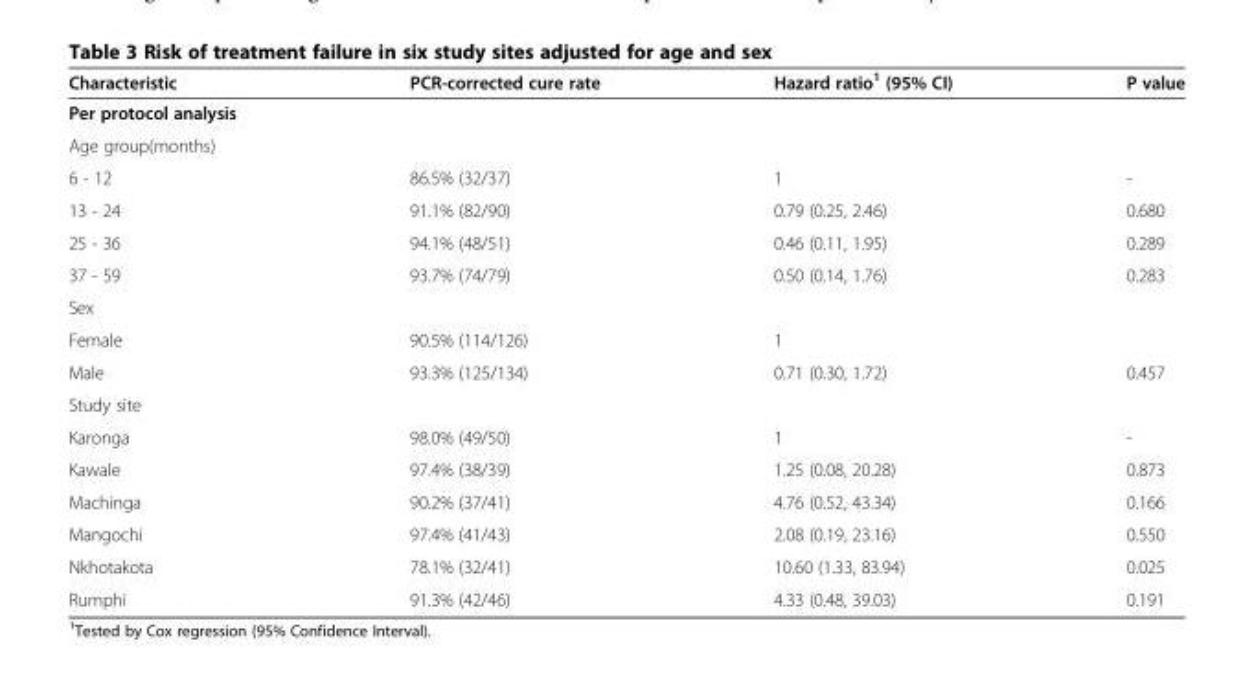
<table><thead><tr><td>Characteristic</td><td>PCR-corrected cure rate</td><td>Hazard ratio<sup>1</sup> (95% CI)</td><td>P value</td></tr></thead><tbody><tr><td colspan="4">Per protocol analysis</td></tr><tr><td colspan="4">Age group(months)</td></tr><tr><td>6 - 12</td><td>86.5% (32/37)</td><td>1</td><td>-</td></tr><tr><td>13 - 24</td><td>91.1% (82/90)</td><td>0.79 (0.25, 2.46)</td><td>0.680</td></tr><tr><td>25 - 36</td><td>94.1% (48/51)</td><td>0.46 (0.11, 1.95)</td><td>0.289</td></tr><tr><td>37 - 59</td><td>93.7% (74/79)</td><td>0.50 (0.14, 1.76)</td><td>0.283</td></tr><tr><td colspan="4">Sex</td></tr><tr><td>Female</td><td>90.5% (114/126)</td><td>1</td><td></td></tr><tr><td>Male</td><td>93.3% (125/134)</td><td>0.71 (0.30, 1.72)</td><td>0.457</td></tr><tr><td colspan="4">Study site</td></tr><tr><td>Karonga</td><td>98.0% (49/50)</td><td>1</td><td>-</td></tr><tr><td>Kawale</td><td>97.4% (38/39)</td><td>1.25 (0.08, 20.28)</td><td>0.873</td></tr><tr><td>Machinga</td><td>90.2% (37/41)</td><td>4.76 (0.52, 43.34)</td><td>0.166</td></tr><tr><td>Mangochi</td><td>97.4% (41/43)</td><td>2.08 (0.19, 23.16)</td><td>0.550</td></tr><tr><td>Nkhotakota</td><td>78.1% (32/41)</td><td>10.60 (1.33, 83.94)</td><td>0.025</td></tr><tr><td>Rumphi</td><td>91.3% (42/46)</td><td>4.33 (0.48, 39.03)</td><td>0.191</td></tr></tbody></table>